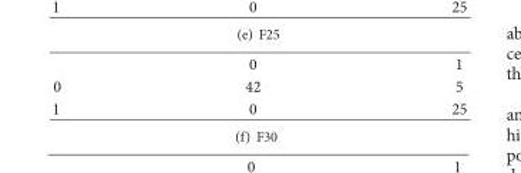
<table><thead><tr><td></td><td>0</td><td>1</td></tr></thead><tbody><tr><td>0</td><td>42</td><td>5</td></tr><tr><td>1</td><td>0</td><td>25</td></tr></tbody></table>